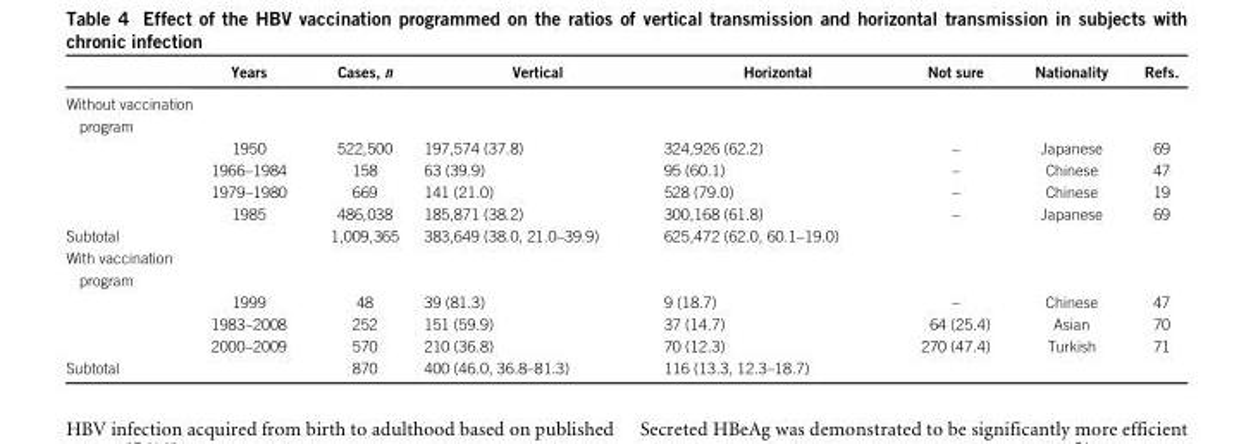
<table><thead><tr><td></td><td>Years</td><td>Cases, n</td><td>Vertical</td><td>Horizontal</td><td>Not sure</td><td>Nationality</td><td>Refs.</td></tr></thead><tbody><tr><td colspan="8">Without vaccination program</td></tr><tr><td></td><td>1950</td><td>522,500</td><td>197,574 (37.8)</td><td>324,926 (62.2)</td><td>–</td><td>Japanese</td><td><sup>69</sup></td></tr><tr><td></td><td>1966–1984</td><td>158</td><td>63 (39.9)</td><td>95 (60.1)</td><td>–</td><td>Chinese</td><td><sup>47</sup></td></tr><tr><td></td><td>1979–1980</td><td>669</td><td>141 (21.0)</td><td>528 (79.0)</td><td>–</td><td>Chinese</td><td><sup>19</sup></td></tr><tr><td></td><td>1985</td><td>486,038</td><td>185,871 (38.2)</td><td>300,168 (61.8)</td><td>–</td><td>Japanese</td><td><sup>69</sup></td></tr><tr><td>Subtotal</td><td></td><td>1,009,365</td><td>383,649 (38.0, 21.0–39.9)</td><td>625,472 (62.0, 60.1–19.0)</td><td></td><td></td><td></td></tr><tr><td colspan="8">With vaccination program</td></tr><tr><td></td><td>1999</td><td>48</td><td>39 (81.3)</td><td>9 (18.7)</td><td>–</td><td>Chinese</td><td><sup>47</sup></td></tr><tr><td></td><td>1983–2008</td><td>252</td><td>151 (59.9)</td><td>37 (14.7)</td><td>64 (25.4)</td><td>Asian</td><td><sup>70</sup></td></tr><tr><td></td><td>2000–2009</td><td>570</td><td>210 (36.8)</td><td>70 (12.3)</td><td>270 (47.4)</td><td>Turkish</td><td><sup>71</sup></td></tr><tr><td>Subtotal</td><td></td><td>870</td><td>400 (46.0, 36.8–81.3)</td><td>116 (13.3, 12.3–18.7)</td><td></td><td></td><td></td></tr></tbody></table>